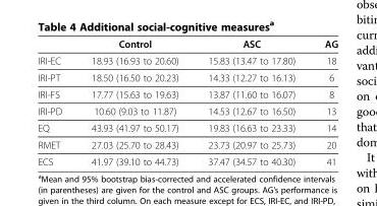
<table><thead><tr><td></td><td>Control</td><td>ASC</td><td>AG</td></tr></thead><tbody><tr><td>IRI-EC</td><td>18.93 (16.93 to 20.60)</td><td>15.83 (13.47 to 17.80)</td><td>18</td></tr><tr><td>IRI-PT</td><td>18.50 (16.50 to 20.23)</td><td>14.33 (12.27 to 16.13)</td><td>6</td></tr><tr><td>IRI-FS</td><td>17.77 (15.63 to 19.63)</td><td>13.87 (11.60 to 16.07)</td><td>8</td></tr><tr><td>IRI-PD</td><td>10.60 (9.03 to 11.87)</td><td>14.53 (12.67 to 16.50)</td><td>13</td></tr><tr><td>EQ</td><td>43.93 (41.97 to 50.17)</td><td>19.83 (16.63 to 23.33)</td><td>14</td></tr><tr><td>RMET</td><td>27.03 (25.70 to 28.43)</td><td>23.73 (20.97 to 25.73)</td><td>20</td></tr><tr><td>ECS</td><td>41.97 (39.10 to 44.73)</td><td>37.47 (34.57 to 40.30)</td><td>41</td></tr></tbody></table>